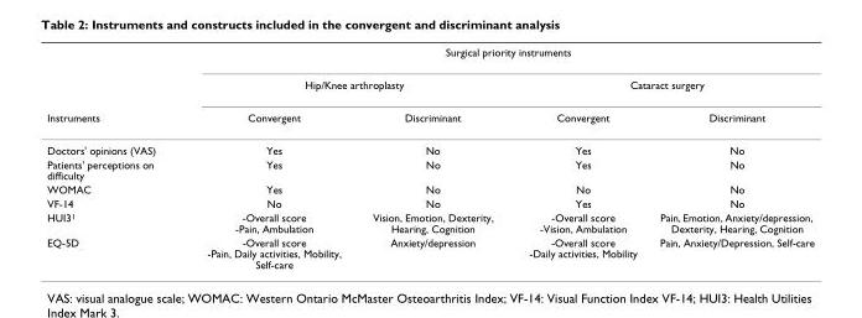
<table><thead><tr><td rowspan="3">Instruments</td><td colspan="4">Surgical priority instruments</td></tr><tr><td colspan="2">Hip/Knee arthroplasty</td><td colspan="2">Cataract surgery</td></tr><tr><td>Convergent</td><td>Discriminant</td><td>Convergent</td><td>Discriminant</td></tr></thead><tbody><tr><td>Doctors&#x27; opinions (VAS)</td><td>Yes</td><td>No</td><td>Yes</td><td>No</td></tr><tr><td>Patients&#x27; perceptions on difficulty</td><td>Yes</td><td>No</td><td>Yes</td><td>No</td></tr><tr><td>WOMAC</td><td>Yes</td><td>No</td><td>No</td><td>No</td></tr><tr><td>VF-14</td><td>No</td><td>No</td><td>Yes</td><td>No</td></tr><tr><td>HUI3<sup>1</sup></td><td>-Overall score -Pain, Ambulation</td><td>Vision, Emotion, Dexterity, Hearing, Cognition</td><td>-Overall score -Vision, Ambulation</td><td>Pain, Emotion, Anxiety/depression, Dexterity, Hearing, Cognition</td></tr><tr><td>EQ-5D</td><td>-Overall score -Pain, Daily activities, Mobility, Self-care</td><td>Anxiety/depression</td><td>-Overall score -Daily activities, Mobility</td><td>Pain, Anxiety/Depression, Self-care</td></tr></tbody></table>